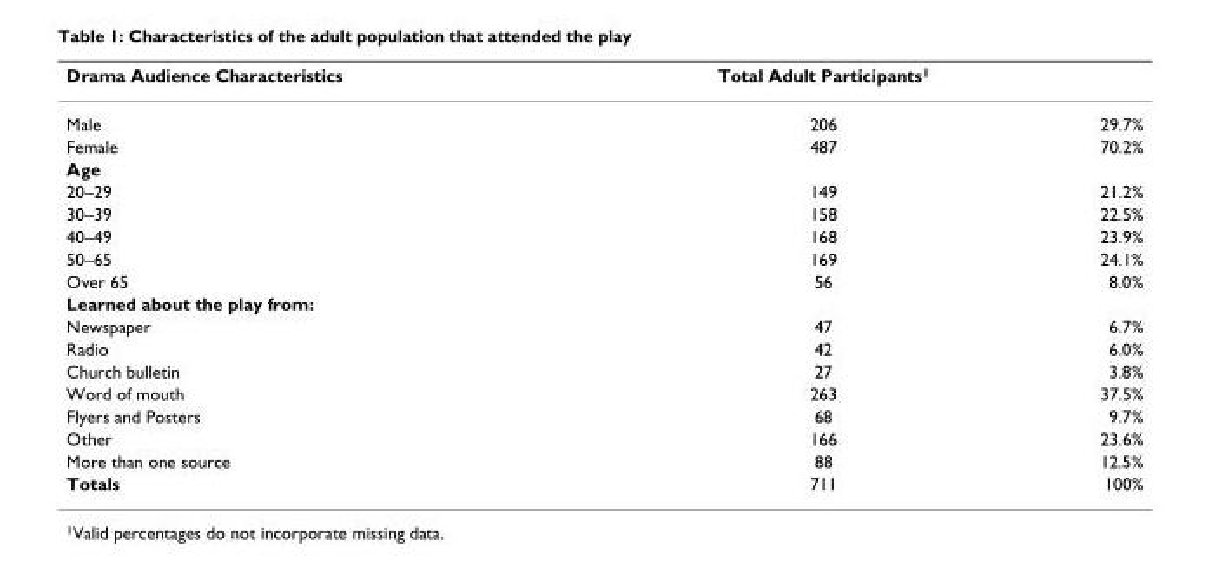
<table><thead><tr><td>Drama Audience Characteristics</td><td>Total Adult Participants<sup>1</sup></td><td></td></tr></thead><tbody><tr><td>Male</td><td>206</td><td>29.7%</td></tr><tr><td>Female</td><td>487</td><td>70.2%</td></tr><tr><td colspan="3">Age</td></tr><tr><td>20–29</td><td>149</td><td>21.2%</td></tr><tr><td>30–39</td><td>158</td><td>22.5%</td></tr><tr><td>40–49</td><td>168</td><td>23.9%</td></tr><tr><td>50–65</td><td>169</td><td>24.1%</td></tr><tr><td>Over 65</td><td>56</td><td>8.0%</td></tr><tr><td colspan="3">Learned about the play from:</td></tr><tr><td>Newspaper</td><td>47</td><td>6.7%</td></tr><tr><td>Radio</td><td>42</td><td>6.0%</td></tr><tr><td>Church bulletin</td><td>27</td><td>3.8%</td></tr><tr><td>Word of mouth</td><td>263</td><td>37.5%</td></tr><tr><td>Flyers and Posters</td><td>68</td><td>9.7%</td></tr><tr><td>Other</td><td>166</td><td>23.6%</td></tr><tr><td>More than one source</td><td>88</td><td>12.5%</td></tr><tr><td>Totals</td><td>711</td><td>100%</td></tr></tbody></table>